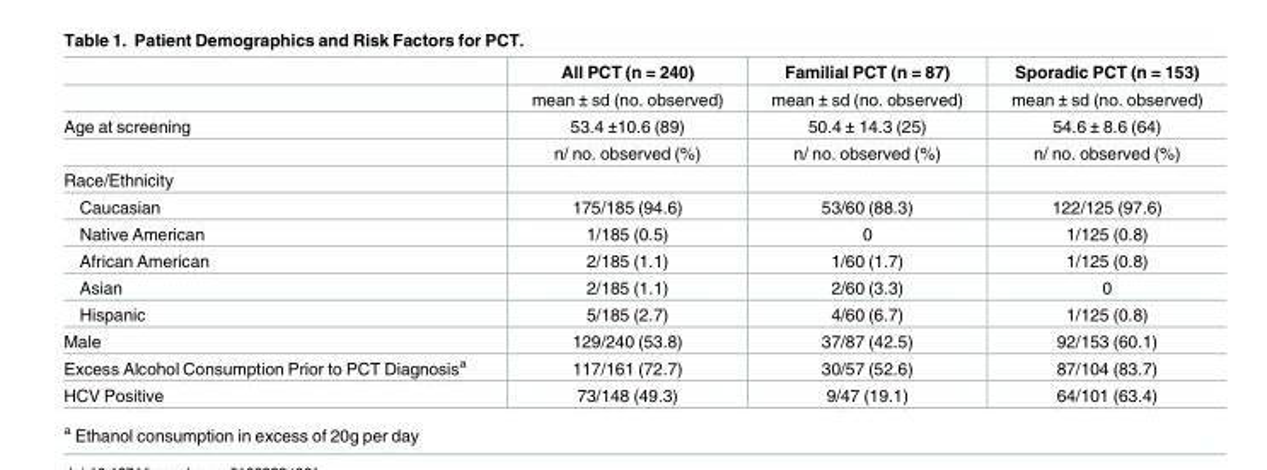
<table><thead><tr><td></td><td>All PCT (n = 240)</td><td>Familial PCT (n = 87)</td><td>Sporadic PCT (n = 153)</td></tr></thead><tbody><tr><td></td><td>mean ± sd (no. observed)</td><td>mean ± sd (no. observed)</td><td>mean ± sd (no. observed)</td></tr><tr><td rowspan="2">Age at screening</td><td>53.4 ±10.6 (89)</td><td>50.4 ± 14.3 (25)</td><td>54.6 ± 8.6 (64)</td></tr><tr><td>n/ no. observed (%)</td><td>n/ no. observed (%)</td><td>n/ no. observed (%)</td></tr><tr><td colspan="4">Race/Ethnicity</td></tr><tr><td>Caucasian</td><td>175/185 (94.6)</td><td>53/60 (88.3)</td><td>122/125 (97.6)</td></tr><tr><td>Native American</td><td>1/185 (0.5)</td><td>0</td><td>1/125 (0.8)</td></tr><tr><td>African American</td><td>2/185 (1.1)</td><td>1/60 (1.7)</td><td>1/125 (0.8)</td></tr><tr><td>Asian</td><td>2/185 (1.1)</td><td>2/60 (3.3)</td><td>0</td></tr><tr><td>Hispanic</td><td>5/185 (2.7)</td><td>4/60 (6.7)</td><td>1/125 (0.8)</td></tr><tr><td>Male</td><td>129/240 (53.8)</td><td>37/87 (42.5)</td><td>92/153 (60.1)</td></tr><tr><td>Excess Alcohol Consumption Prior to PCT Diagnosis<sup>a</sup></td><td>117/161 (72.7)</td><td>30/57 (52.6)</td><td>87/104 (83.7)</td></tr><tr><td>HCV Positive</td><td>73/148 (49.3)</td><td>9/47 (19.1)</td><td>64/101 (63.4)</td></tr></tbody></table>